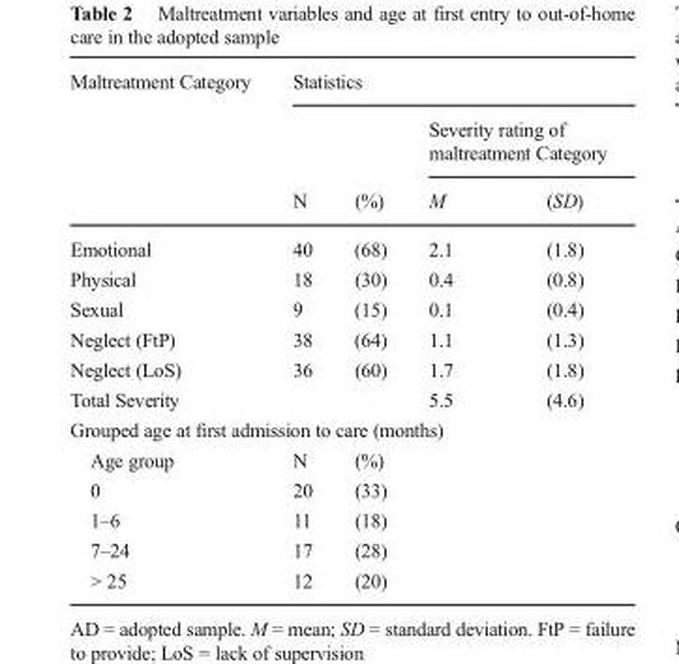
<table><thead><tr><td rowspan="3">Maltreatment Category</td><td colspan="4">Statistics</td></tr><tr><td rowspan="2">N</td><td rowspan="2">(%)</td><td colspan="2">Severity rating of maltreatment Category</td></tr><tr><td>M</td><td>(SD)</td></tr></thead><tbody><tr><td>Emotional</td><td>40</td><td>(68)</td><td>2.1</td><td>(1.8)</td></tr><tr><td>Physical</td><td>18</td><td>(30)</td><td>0.4</td><td>(0.8)</td></tr><tr><td>Sexual</td><td>9</td><td>(15)</td><td>0.1</td><td>(0.4)</td></tr><tr><td>Neglect (FtP)</td><td>38</td><td>(64)</td><td>1.1</td><td>(1.3)</td></tr><tr><td>Neglect (LoS)</td><td>36</td><td>(60)</td><td>1.7</td><td>(1.8)</td></tr><tr><td>Total Severity</td><td></td><td></td><td>5.5</td><td>(4.6)</td></tr><tr><td colspan="5">Grouped age at first admission to care (months)</td></tr><tr><td>Age group</td><td>N</td><td>(%)</td><td></td><td></td></tr><tr><td>0</td><td>20</td><td>(33)</td><td></td><td></td></tr><tr><td>1–6</td><td>11</td><td>(18)</td><td></td><td></td></tr><tr><td>7–24</td><td>17</td><td>(28)</td><td></td><td></td></tr><tr><td>&gt; 25</td><td>12</td><td>(20)</td><td></td><td></td></tr></tbody></table>